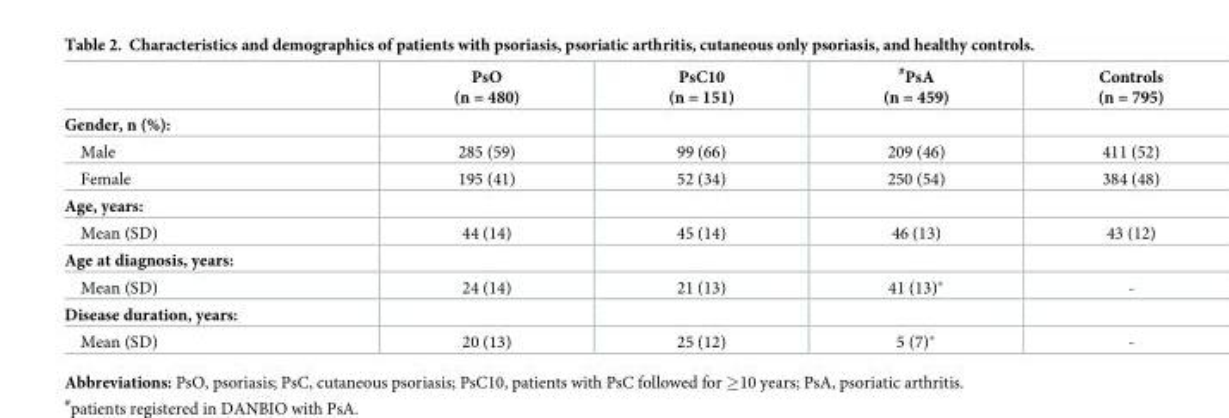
<table><thead><tr><td></td><td>PsO (n = 480)</td><td>PsC10 (n = 151)</td><td><sup>#</sup>PsA (n = 459)</td><td>Controls (n = 795)</td></tr></thead><tbody><tr><td colspan="5">Gender, n (%):</td></tr><tr><td>Male</td><td>285 (59)</td><td>99 (66)</td><td>209 (46)</td><td>411 (52)</td></tr><tr><td>Female</td><td>195 (41)</td><td>52 (34)</td><td>250 (54)</td><td>384 (48)</td></tr><tr><td colspan="5">Age, years:</td></tr><tr><td>Mean (SD)</td><td>44 (14)</td><td>45 (14)</td><td>46 (13)</td><td>43 (12)</td></tr><tr><td colspan="5">Age at diagnosis, years:</td></tr><tr><td>Mean (SD)</td><td>24 (14)</td><td>21 (13)</td><td>41 (13)*</td><td>-</td></tr><tr><td colspan="5">Disease duration, years:</td></tr><tr><td>Mean (SD)</td><td>20 (13)</td><td>25 (12)</td><td>5 (7)*</td><td>-</td></tr></tbody></table>